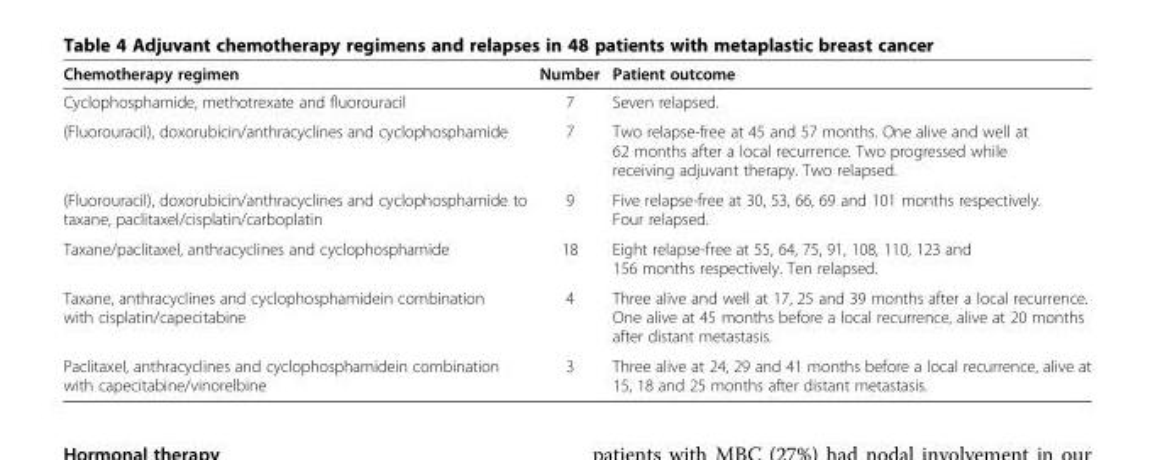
<table><thead><tr><td>Chemotherapy regimen</td><td>Number</td><td>Patient outcome</td></tr></thead><tbody><tr><td>Cyclophosphamide, methotrexate and fluorouracil</td><td>7</td><td>Seven relapsed.</td></tr><tr><td>(Fluorouracil), doxorubicin/anthracyclines and cyclophosphamide</td><td>7</td><td>Two relapse-free at 45 and 57 months. One alive and well at 62 months after a local recurrence. Two progressed while receiving adjuvant therapy. Two relapsed.</td></tr><tr><td>(Fluorouracil), doxorubicin/anthracyclines and cyclophosphamide to taxane, paclitaxel/cisplatin/carboplatin</td><td>9</td><td>Five relapse-free at 30, 53, 66, 69 and 101 months respectively. Four relapsed.</td></tr><tr><td>Taxane/paclitaxel, anthracyclines and cyclophosphamide</td><td>18</td><td>Eight relapse-free at 55, 64, 75, 91, 108, 110, 123 and 156 months respectively. Ten relapsed.</td></tr><tr><td>Taxane, anthracyclines and cyclophosphamidein combination with cisplatin/capecitabine</td><td>4</td><td>Three alive and well at 17, 25 and 39 months after a local recurrence. One alive at 45 months before a local recurrence, alive at 20 months after distant metastasis.</td></tr><tr><td>Paclitaxel, anthracyclines and cyclophosphamidein combination with capecitabine/vinorelbine</td><td>3</td><td>Three alive at 24, 29 and 41 months before a local recurrence, alive at 15, 18 and 25 months after distant metastasis.</td></tr></tbody></table>